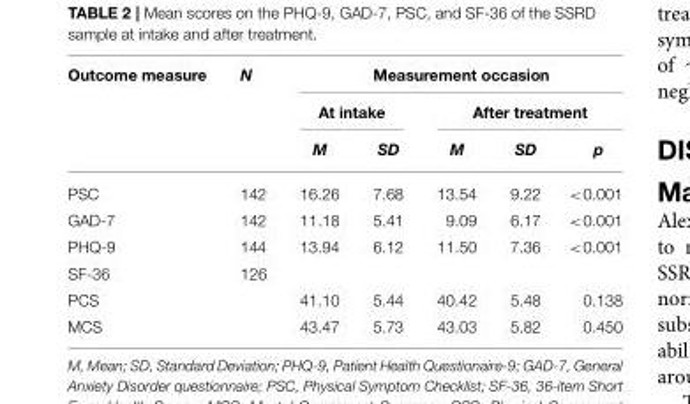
<table><thead><tr><td rowspan="3">Outcome measure</td><td rowspan="3">N</td><td colspan="5">Measurement occasion</td></tr><tr><td colspan="2">At intake</td><td colspan="3">After treatment</td></tr><tr><td>M</td><td>SD</td><td>M</td><td>SD</td><td>p</td></tr></thead><tbody><tr><td>PSC</td><td>142</td><td>16.26</td><td>7.68</td><td>13.54</td><td>9.22</td><td>&lt;0.001</td></tr><tr><td>GAD-7</td><td>142</td><td>11.18</td><td>5.41</td><td>9.09</td><td>6.17</td><td>&lt;0.001</td></tr><tr><td>PHQ-9</td><td>144</td><td>13.94</td><td>6.12</td><td>11.50</td><td>7.36</td><td>&lt;0.001</td></tr><tr><td>SF-36</td><td>126</td><td></td><td></td><td></td><td></td><td></td></tr><tr><td>PCS</td><td></td><td>41.10</td><td>5.44</td><td>40.42</td><td>5.48</td><td>0.138</td></tr><tr><td>MCS</td><td></td><td>43.47</td><td>5.73</td><td>43.03</td><td>5.82</td><td>0.450</td></tr></tbody></table>